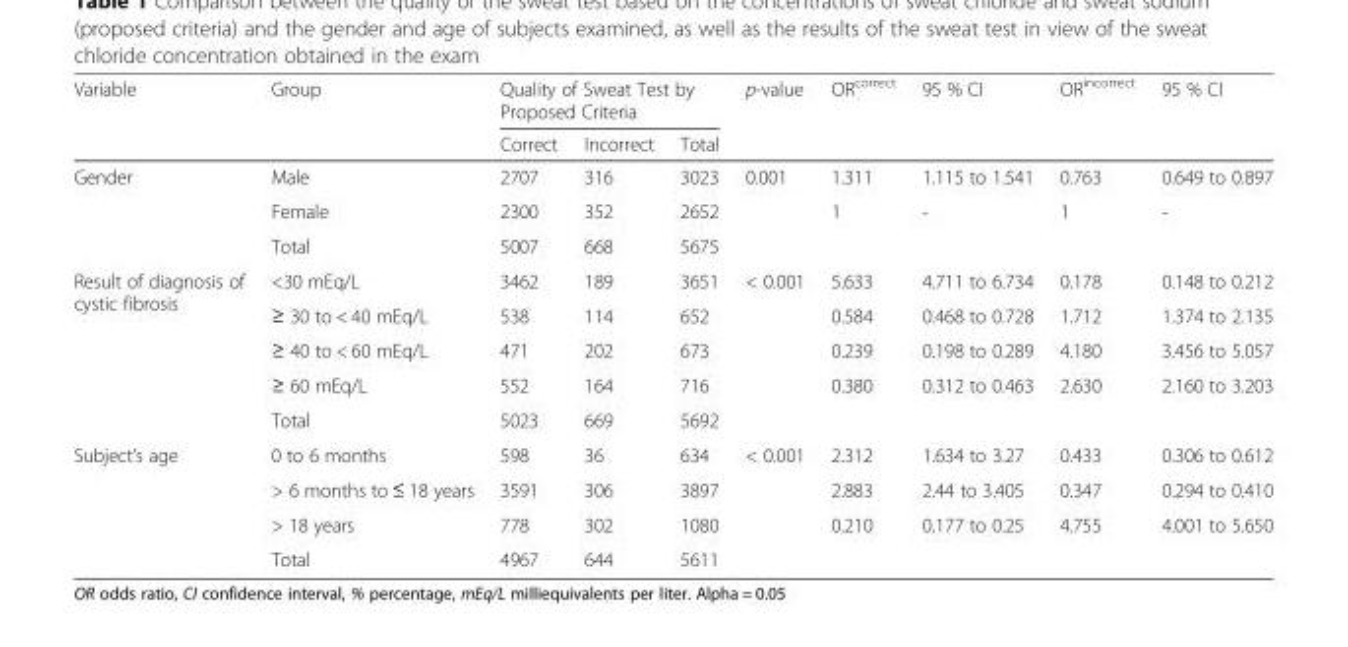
<table><thead><tr><td rowspan="2">Variable</td><td rowspan="2">Group</td><td colspan="3">Quality of Sweat Test by Proposed Criteria</td><td rowspan="2">p-value</td><td rowspan="2">OR<sup>correct</sup></td><td rowspan="2">95 % CI</td><td rowspan="2">OR<sup>incorrect</sup></td><td rowspan="2">95 % CI</td></tr><tr><td>Correct</td><td>Incorrect</td><td>Total</td></tr></thead><tbody><tr><td rowspan="3">Gender</td><td>Male</td><td>2707</td><td>316</td><td>3023</td><td rowspan="3">0.001</td><td>1.311</td><td>1.115 to 1.541</td><td>0.763</td><td>0.649 to 0.897</td></tr><tr><td>Female</td><td>2300</td><td>352</td><td>2652</td><td>1</td><td>-</td><td>1</td><td>-</td></tr><tr><td>Total</td><td>5007</td><td>668</td><td>5675</td><td></td><td></td><td></td><td></td></tr><tr><td rowspan="5">Result of diagnosis of cystic fibrosis</td><td>&lt;30 mEq/L</td><td>3462</td><td>189</td><td>3651</td><td rowspan="5">&lt; 0.001</td><td>5.633</td><td>4.711 to 6.734</td><td>0.178</td><td>0.148 to 0.212</td></tr><tr><td>≥ 30 to &lt; 40 mEq/L</td><td>538</td><td>114</td><td>652</td><td>0.584</td><td>0.468 to 0.728</td><td>1.712</td><td>1.374 to 2.135</td></tr><tr><td>≥ 40 to &lt; 60 mEq/L</td><td>471</td><td>202</td><td>673</td><td>0.239</td><td>0.198 to 0.289</td><td>4.180</td><td>3.456 to 5.057</td></tr><tr><td>≥ 60 mEq/L</td><td>552</td><td>164</td><td>716</td><td>0.380</td><td>0.312 to 0.463</td><td>2.630</td><td>2.160 to 3.203</td></tr><tr><td>Total</td><td>5023</td><td>669</td><td>5692</td><td></td><td></td><td></td><td></td></tr><tr><td rowspan="4">Subject’s age</td><td>0 to 6 months</td><td>598</td><td>36</td><td>634</td><td rowspan="4">&lt; 0.001</td><td>2.312</td><td>1.634 to 3.27</td><td>0.433</td><td>0.306 to 0.612</td></tr><tr><td>&gt; 6 months to ≤ 18 years</td><td>3591</td><td>306</td><td>3897</td><td>2.883</td><td>2.44 to 3.405</td><td>0.347</td><td>0.294 to 0.410</td></tr><tr><td>&gt; 18 years</td><td>778</td><td>302</td><td>1080</td><td>0.210</td><td>0.177 to 0.25</td><td>4.755</td><td>4.001 to 5.650</td></tr><tr><td>Total</td><td>4967</td><td>644</td><td>5611</td><td></td><td></td><td></td><td></td></tr></tbody></table>